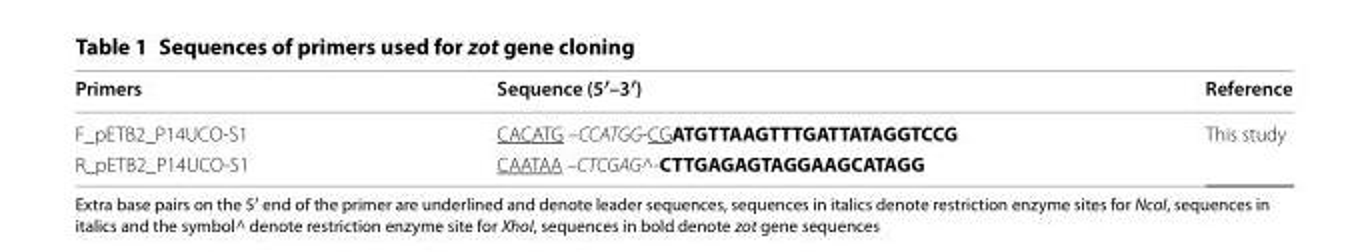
<table><thead><tr><td>Primers</td><td>Sequence (5′–3′)</td><td>Reference</td></tr></thead><tbody><tr><td>F_pETB2_P14UCO-S1</td><td>CACATG –CCATGG-CGATGTTAAGTTTGATTATAGGTCCG</td><td rowspan="2">This study</td></tr><tr><td>R_pETB2_P14UCO-S1</td><td>CAATAA –CTCGAG^-CTTGAGAGTAGGAAGCATAGG</td></tr></tbody></table>